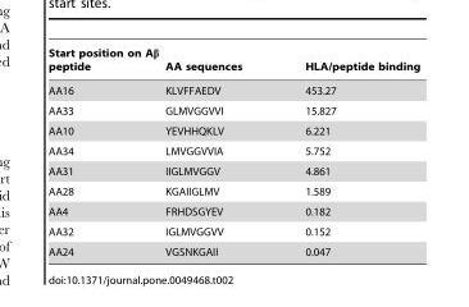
<table><thead><tr><td>Start position on Aβ peptide</td><td>AA sequences</td><td>HLA/peptide binding</td></tr></thead><tbody><tr><td>AA16</td><td>KLVFFAEDV</td><td>453.27</td></tr><tr><td>AA33</td><td>GLMVGGVVI</td><td>15.827</td></tr><tr><td>AA10</td><td>YEVHHQKLV</td><td>6.221</td></tr><tr><td>AA34</td><td>LMVGGVVIA</td><td>5.752</td></tr><tr><td>AA31</td><td>IIGLMVGGV</td><td>4.861</td></tr><tr><td>AA28</td><td>KGAIIGLMV</td><td>1.589</td></tr><tr><td>AA4</td><td>FRHDSGYEV</td><td>0.182</td></tr><tr><td>AA32</td><td>IGLMVGGVV</td><td>0.152</td></tr><tr><td>AA24</td><td>VGSNKGAII</td><td>0.047</td></tr></tbody></table>